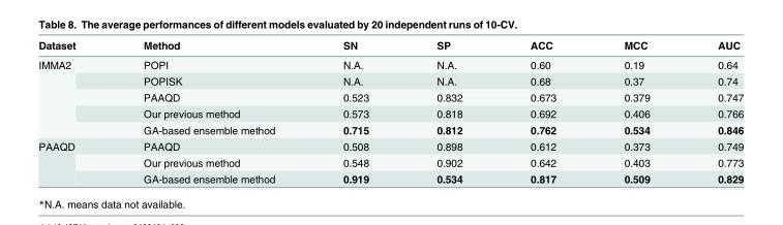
<table><thead><tr><td>Dataset</td><td>Method</td><td>SN</td><td>SP</td><td>ACC</td><td>MCC</td><td>AUC</td></tr></thead><tbody><tr><td rowspan="5">IMMA2</td><td>POPI</td><td>N.A.</td><td>N.A.</td><td>0.60</td><td>0.19</td><td>0.64</td></tr><tr><td>POPISK</td><td>N.A.</td><td>N.A.</td><td>0.68</td><td>0.37</td><td>0.74</td></tr><tr><td>PAAQD</td><td>0.523</td><td>0.832</td><td>0.673</td><td>0.379</td><td>0.747</td></tr><tr><td>Our previous method</td><td>0.573</td><td>0.818</td><td>0.692</td><td>0.406</td><td>0.766</td></tr><tr><td>GA-based ensemble method</td><td>0.715</td><td>0.812</td><td>0.762</td><td>0.534</td><td>0.846</td></tr><tr><td rowspan="3">PAAQD</td><td>PAAQD</td><td>0.508</td><td>0.898</td><td>0.612</td><td>0.373</td><td>0.749</td></tr><tr><td>Our previous method</td><td>0.548</td><td>0.902</td><td>0.642</td><td>0.403</td><td>0.773</td></tr><tr><td>GA-based ensemble method</td><td>0.919</td><td>0.534</td><td>0.817</td><td>0.509</td><td>0.829</td></tr></tbody></table>